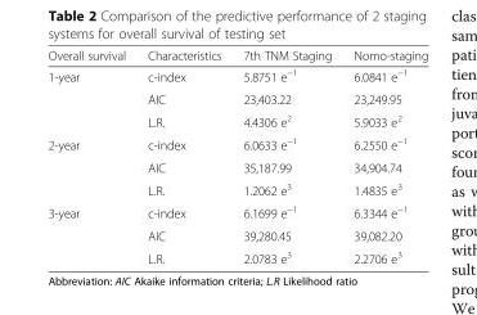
<table><thead><tr><td>Overall survival</td><td>Characteristics</td><td>7th TNM Staging</td><td>Nomo-staging</td></tr></thead><tbody><tr><td rowspan="3">1-year</td><td>c-index</td><td>5.8751 e<sup>−1</sup></td><td>6.0841 e<sup>−1</sup></td></tr><tr><td>AIC</td><td>23,403.22</td><td>23,249.95</td></tr><tr><td>L.R.</td><td>4.4306 e<sup>2</sup></td><td>5.9033 e<sup>2</sup></td></tr><tr><td rowspan="3">2-year</td><td>c-index</td><td>6.0633 e<sup>−1</sup></td><td>6.2550 e<sup>−1</sup></td></tr><tr><td>AIC</td><td>35,187.99</td><td>34,904.74</td></tr><tr><td>L.R.</td><td>1.2062 e<sup>3</sup></td><td>1.4835 e<sup>3</sup></td></tr><tr><td rowspan="3">3-year</td><td>c-index</td><td>6.1699 e<sup>−1</sup></td><td>6.3344 e<sup>−1</sup></td></tr><tr><td>AIC</td><td>39,280.45</td><td>39,082.20</td></tr><tr><td>L.R.</td><td>2.0783 e<sup>3</sup></td><td>2.2706 e<sup>3</sup></td></tr></tbody></table>